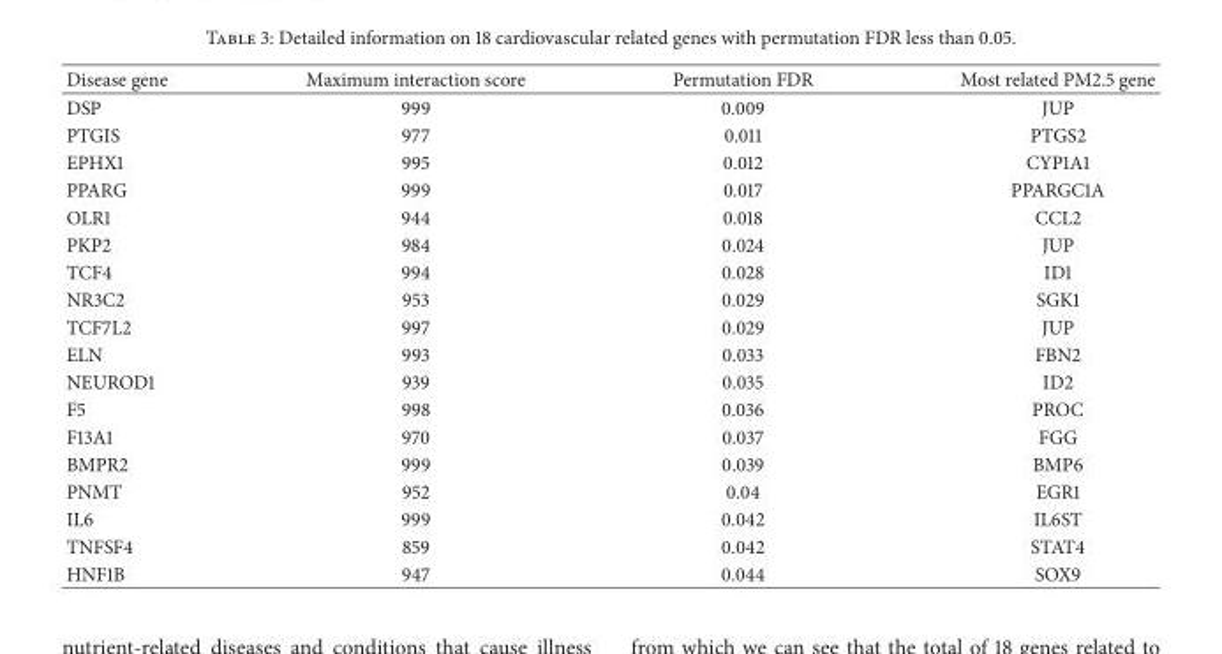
<table><thead><tr><td>Disease gene</td><td>Maximum interaction score</td><td>Permutation FDR</td><td>Most related PM2.5 gene</td></tr></thead><tbody><tr><td>DSP</td><td>999</td><td>0.009</td><td>JUP</td></tr><tr><td>PTGIS</td><td>977</td><td>0.011</td><td>PTGS2</td></tr><tr><td>EPHX1</td><td>995</td><td>0.012</td><td>CYP1A1</td></tr><tr><td>PPARG</td><td>999</td><td>0.017</td><td>PPARGC1A</td></tr><tr><td>OLR1</td><td>944</td><td>0.018</td><td>CCL2</td></tr><tr><td>PKP2</td><td>984</td><td>0.024</td><td>JUP</td></tr><tr><td>TCF4</td><td>994</td><td>0.028</td><td>ID1</td></tr><tr><td>NR3C2</td><td>953</td><td>0.029</td><td>SGK1</td></tr><tr><td>TCF7L2</td><td>997</td><td>0.029</td><td>JUP</td></tr><tr><td>ELN</td><td>993</td><td>0.033</td><td>FBN2</td></tr><tr><td>NEUROD1</td><td>939</td><td>0.035</td><td>ID2</td></tr><tr><td>F5</td><td>998</td><td>0.036</td><td>PROC</td></tr><tr><td>F13A1</td><td>970</td><td>0.037</td><td>FGG</td></tr><tr><td>BMPR2</td><td>999</td><td>0.039</td><td>BMP6</td></tr><tr><td>PNMT</td><td>952</td><td>0.04</td><td>EGR1</td></tr><tr><td>IL6</td><td>999</td><td>0.042</td><td>IL6ST</td></tr><tr><td>TNFSF4</td><td>859</td><td>0.042</td><td>STAT4</td></tr><tr><td>HNF1B</td><td>947</td><td>0.044</td><td>SOX9</td></tr></tbody></table>